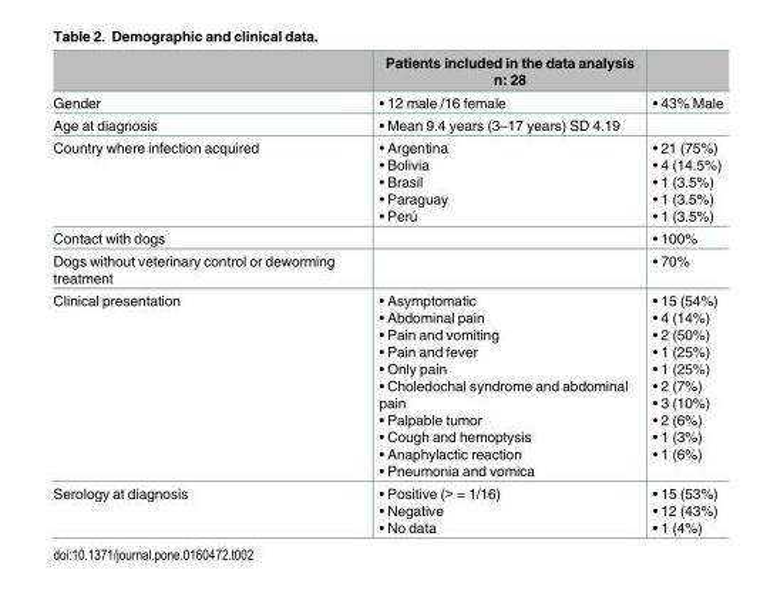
<table><thead><tr><td></td><td>Patients included in the data analysis n: 28</td><td></td></tr></thead><tbody><tr><td>Gender</td><td>• 12 male /16 female</td><td>• 43% Male</td></tr><tr><td>Age at diagnosis</td><td>• Mean 9.4 years (3–17 years) SD 4.19</td><td></td></tr><tr><td>Country where infection acquired</td><td>• Argentina • Bolivia • Brasil • Paraguay • Perú</td><td>• 21 (75%) • 4 (14.5%) • 1 (3.5%) • 1 (3.5%) • 1 (3.5%)</td></tr><tr><td>Contact with dogs</td><td></td><td>• 100%</td></tr><tr><td>Dogs without veterinary control or deworming treatment</td><td></td><td>• 70%</td></tr><tr><td>Clinical presentation</td><td>• Asymptomatic • Abdominal pain • Pain and vomiting • Pain and fever • Only pain • Choledochal syndrome and abdominal pain • Palpable tumor • Cough and hemoptysis • Anaphylactic reaction • Pneumonia and vomica</td><td>• 15 (54%) • 4 (14%) • 2 (50%) • 1 (25%) • 1 (25%) • 2 (7%) • 3 (10%) • 2 (6%) • 1 (3%) • 1 (6%)</td></tr><tr><td>Serology at diagnosis</td><td>• Positive (&gt; = 1/16) • Negative • No data</td><td>• 15 (53%) • 12 (43%) • 1 (4%)</td></tr></tbody></table>